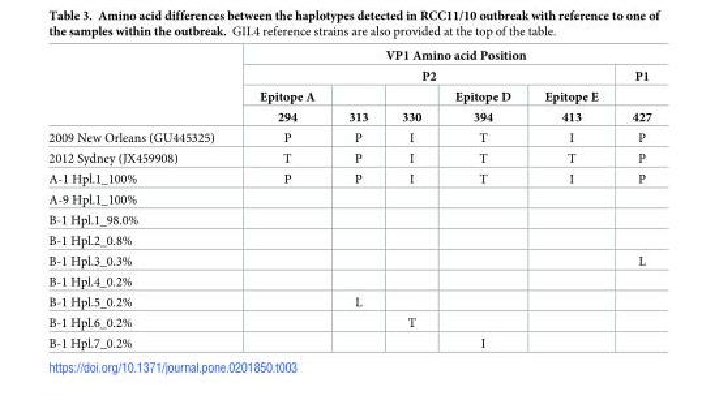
<table><thead><tr><td rowspan="4"></td><td colspan="6">VP1 Amino acid Position</td></tr><tr><td colspan="5">P2</td><td rowspan="3">P1 427</td></tr><tr><td rowspan="2">Epitope A 294</td><td rowspan="2">313</td><td rowspan="2">330</td><td rowspan="2">Epitope D 394</td><td rowspan="2">Epitope E 413</td></tr><tr></tr></thead><tbody><tr><td>2009 New Orleans (GU445325)</td><td>P</td><td>P</td><td>I</td><td>T</td><td>I</td><td>P</td></tr><tr><td>2012 Sydney (JX459908)</td><td>T</td><td>P</td><td>I</td><td>T</td><td>T</td><td>P</td></tr><tr><td>A-1 Hpl.1_100%</td><td>P</td><td>P</td><td>I</td><td>T</td><td>I</td><td>P</td></tr><tr><td colspan="7">A-9 Hpl.1_100%</td></tr><tr><td colspan="7">B-1 Hpl.1_98.0%</td></tr><tr><td colspan="7">B-1 Hpl.2_0.8%</td></tr><tr><td>B-1 Hpl.3_0.3%</td><td></td><td></td><td></td><td></td><td></td><td>L</td></tr><tr><td colspan="7">B-1 Hpl.4_0.2%</td></tr><tr><td>B-1 Hpl.5_0.2%</td><td></td><td>L</td><td></td><td></td><td></td><td></td></tr><tr><td>B-1 Hpl.6_0.2%</td><td></td><td></td><td>T</td><td></td><td></td><td></td></tr><tr><td>B-1 Hpl.7_0.2%</td><td></td><td></td><td></td><td>I</td><td></td><td></td></tr></tbody></table>